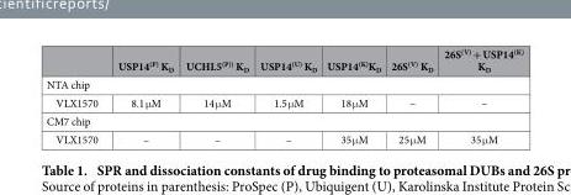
<table><thead><tr><td></td><td>USP14<sup>(P)</sup> K<sub>D</sub></td><td>UCHL5<sup>(P))</sup> K<sub>D</sub></td><td>USP14<sup>(U)</sup> K<sub>D</sub></td><td>USP14<sup>(K)</sup>K<sub>D</sub></td><td>26S<sup>(V)</sup> K<sub>D</sub></td><td>26S<sup>(V)</sup> + USP14<sup>(K)</sup> K<sub>D</sub></td></tr></thead><tbody><tr><td colspan="7">NTA chip</td></tr><tr><td>VLX1570</td><td>8.1 μ M</td><td>14 μ M</td><td>1.5 μ M</td><td>18 μ M</td><td>–</td><td>–</td></tr><tr><td colspan="7">CM7 chip</td></tr><tr><td>VLX1570</td><td>–</td><td>–</td><td>–</td><td>35 μ M</td><td>25 μ M</td><td>35 μ M</td></tr></tbody></table>